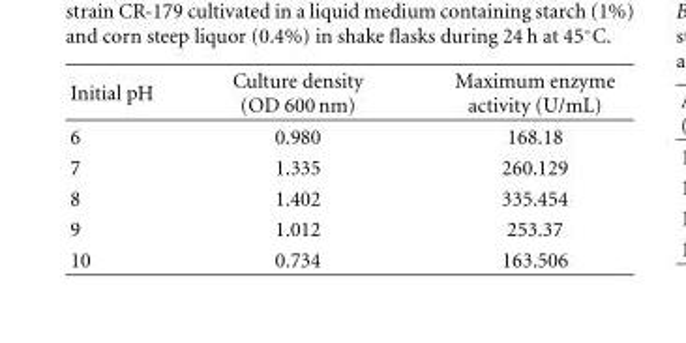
<table><thead><tr><td>Initial pH</td><td>Culture density (OD 600 nm)</td><td>Maximum enzyme activity (U/mL)</td></tr></thead><tbody><tr><td>6</td><td>0.980</td><td>168.18</td></tr><tr><td>7</td><td>1.335</td><td>260.129</td></tr><tr><td>8</td><td>1.402</td><td>335.454</td></tr><tr><td>9</td><td>1.012</td><td>253.37</td></tr><tr><td>10</td><td>0.734</td><td>163.506</td></tr></tbody></table>